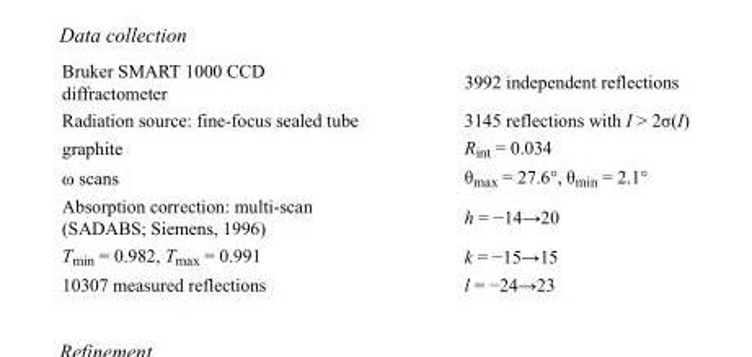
<table><tbody><tr><td>Bruker SMART 1000 CCD diffractometer</td><td>3992 independent reflections</td></tr><tr><td>Radiation source: fine-focus sealed tube</td><td>3145 reflections with I &gt; 2σ(I)</td></tr><tr><td>graphite</td><td>R<sub>int</sub> = 0.034</td></tr><tr><td>ω scans</td><td>θ<sub>max</sub> = 27.6°, θ<sub>min</sub> = 2.1°</td></tr><tr><td>Absorption correction: multi-scan (SADABS; Siemens, 1996)</td><td>h = −14→20</td></tr><tr><td>T<sub>min</sub> = 0.982, T<sub>max</sub> = 0.991</td><td>k = −15→15</td></tr><tr><td>10307 measured reflections</td><td>l = −24→23</td></tr></tbody></table>